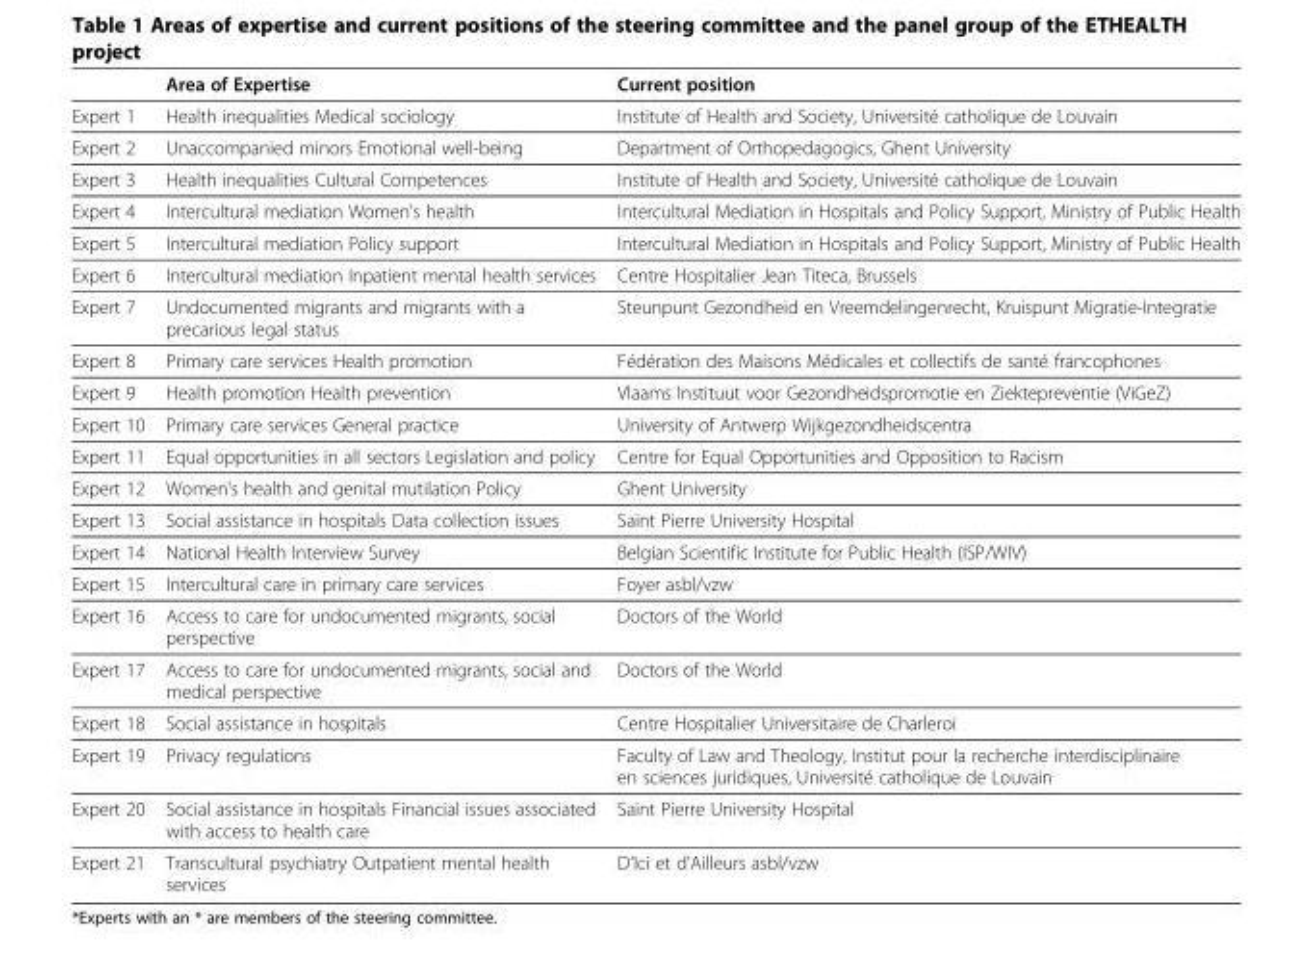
<table><thead><tr><td></td><td>Area of Expertise</td><td>Current position</td></tr></thead><tbody><tr><td>Expert 1</td><td>Health inequalities Medical sociology</td><td>Institute of Health and Society, Université catholique de Louvain</td></tr><tr><td>Expert 2</td><td>Unaccompanied minors Emotional well-being</td><td>Department of Orthopedagogics, Ghent University</td></tr><tr><td>Expert 3</td><td>Health inequalities Cultural Competences</td><td>Institute of Health and Society, Université catholique de Louvain</td></tr><tr><td>Expert 4</td><td>Intercultural mediation Women&#x27;s health</td><td>Intercultural Mediation in Hospitals and Policy Support, Ministry of Public Health</td></tr><tr><td>Expert 5</td><td>Intercultural mediation Policy support</td><td>Intercultural Mediation in Hospitals and Policy Support, Ministry of Public Health</td></tr><tr><td>Expert 6</td><td>Intercultural mediation Inpatient mental health services</td><td>Centre Hospitalier Jean Titeca, Brussels</td></tr><tr><td>Expert 7</td><td>Undocumented migrants and migrants with a precarious legal status</td><td>Steunpunt Gezondheid en Vreemdelingenrecht, Kruispunt Migratie-Integratie</td></tr><tr><td>Expert 8</td><td>Primary care services Health promotion</td><td>Fédération des Maisons Médicales et collectifs de santé francophones</td></tr><tr><td>Expert 9</td><td>Health promotion Health prevention</td><td>Vlaams Instituut voor Gezondheidspromotie en Ziektepreventie (ViGeZ)</td></tr><tr><td>Expert 10</td><td>Primary care services General practice</td><td>University of Antwerp Wijkgezondheidscentra</td></tr><tr><td>Expert 11</td><td>Equal opportunities in all sectors Legislation and policy</td><td>Centre for Equal Opportunities and Opposition to Racism</td></tr><tr><td>Expert 12</td><td>Women&#x27;s health and genital mutilation Policy</td><td>Ghent University</td></tr><tr><td>Expert 13</td><td>Social assistance in hospitals Data collection issues</td><td>Saint Pierre University Hospital</td></tr><tr><td>Expert 14</td><td>National Health Interview Survey</td><td>Belgian Scientific Institute for Public Health (ISP/WIV)</td></tr><tr><td>Expert 15</td><td>Intercultural care in primary care services</td><td>Foyer asbl/vzw</td></tr><tr><td>Expert 16</td><td>Access to care for undocumented migrants, social perspective</td><td>Doctors of the World</td></tr><tr><td>Expert 17</td><td>Access to care for undocumented migrants, social and medical perspective</td><td>Doctors of the World</td></tr><tr><td>Expert 18</td><td>Social assistance in hospitals</td><td>Centre Hospitalier Universitaire de Charleroi</td></tr><tr><td>Expert 19</td><td>Privacy regulations</td><td>Faculty of Law and Theology, Institut pour la recherche interdisciplinaire en sciences juridiques, Université catholique de Louvain</td></tr><tr><td>Expert 20</td><td>Social assistance in hospitals Financial issues associated with access to health care</td><td>Saint Pierre University Hospital</td></tr><tr><td>Expert 21</td><td>Transcultural psychiatry Outpatient mental health services</td><td>D’Ici et d’Ailleurs asbl/vzw</td></tr></tbody></table>